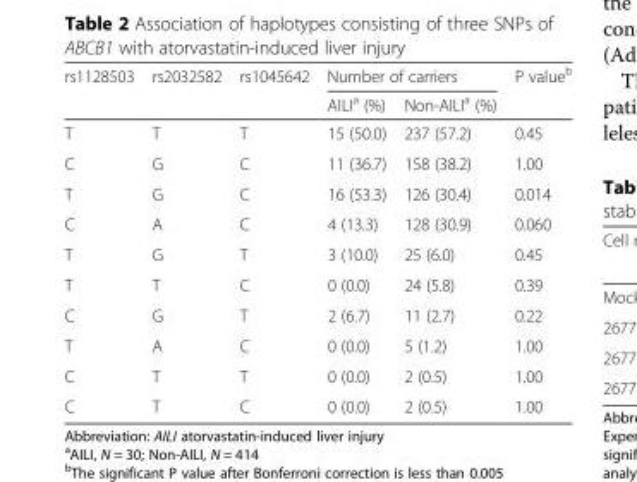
<table><thead><tr><td rowspan="2">rs1128503</td><td rowspan="2">rs2032582</td><td rowspan="2">rs1045642</td><td colspan="2">Number of carriers</td><td rowspan="2">P value<sup>b</sup></td></tr><tr><td>AILI<sup>a</sup> (%)</td><td>Non-AILI<sup>a</sup> (%)</td></tr></thead><tbody><tr><td>T</td><td>T</td><td>T</td><td>15 (50.0)</td><td>237 (57.2)</td><td>0.45</td></tr><tr><td>C</td><td>G</td><td>C</td><td>11 (36.7)</td><td>158 (38.2)</td><td>1.00</td></tr><tr><td>T</td><td>G</td><td>C</td><td>16 (53.3)</td><td>126 (30.4)</td><td>0.014</td></tr><tr><td>C</td><td>A</td><td>C</td><td>4 (13.3)</td><td>128 (30.9)</td><td>0.060</td></tr><tr><td>T</td><td>G</td><td>T</td><td>3 (10.0)</td><td>25 (6.0)</td><td>0.45</td></tr><tr><td>T</td><td>T</td><td>C</td><td>0 (0.0)</td><td>24 (5.8)</td><td>0.39</td></tr><tr><td>C</td><td>G</td><td>T</td><td>2 (6.7)</td><td>11 (2.7)</td><td>0.22</td></tr><tr><td>T</td><td>A</td><td>C</td><td>0 (0.0)</td><td>5 (1.2)</td><td>1.00</td></tr><tr><td>C</td><td>T</td><td>T</td><td>0 (0.0)</td><td>2 (0.5)</td><td>1.00</td></tr><tr><td>C</td><td>T</td><td>C</td><td>0 (0.0)</td><td>2 (0.5)</td><td>1.00</td></tr></tbody></table>